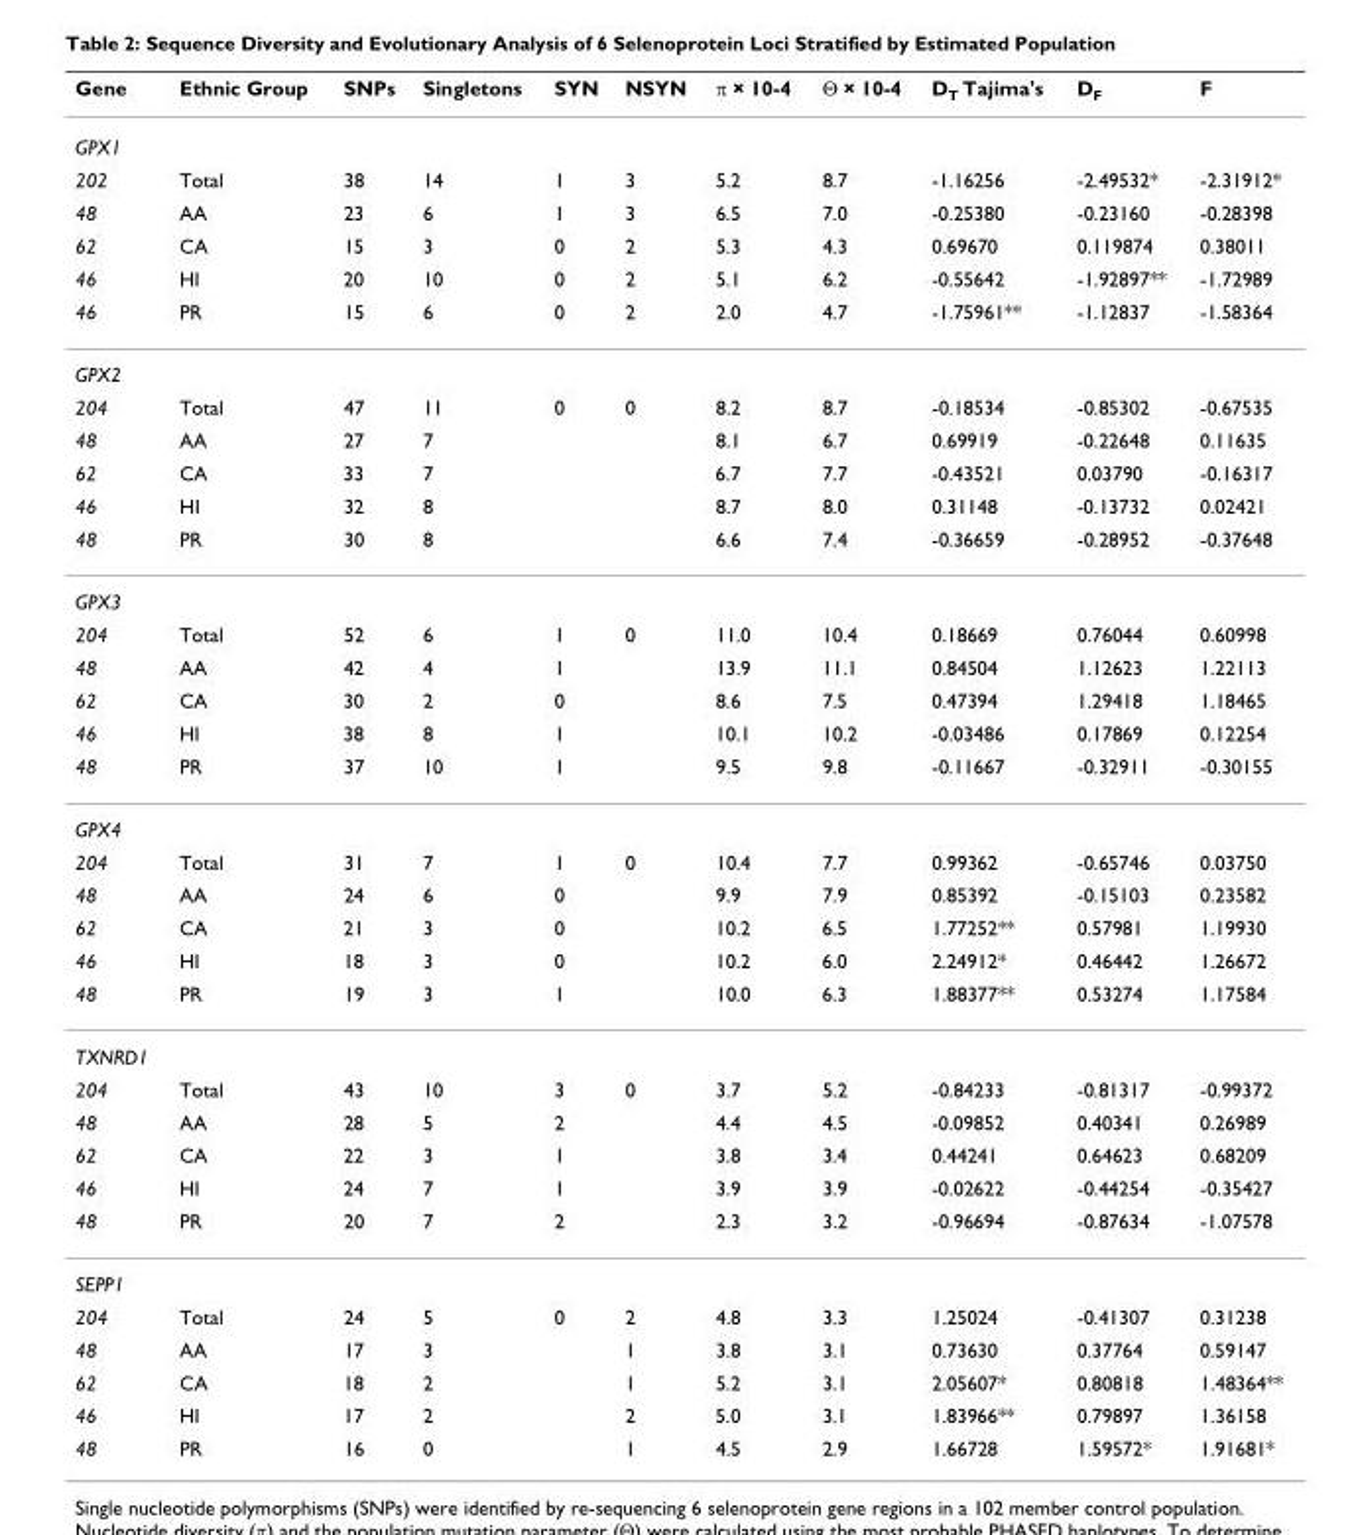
<table><thead><tr><td>Gene</td><td>Ethnic Group</td><td>SNPs</td><td>Singletons</td><td>SYN</td><td>NSYN</td><td>π × 10-4</td><td>Θ × 10-4</td><td>D<sub>T</sub> Tajima&#x27;s</td><td>D<sub>F</sub></td><td>F</td></tr></thead><tbody><tr><td colspan="11">GPX1</td></tr><tr><td>202</td><td>Total</td><td>38</td><td>14</td><td>1</td><td>3</td><td>5.2</td><td>8.7</td><td>-1.16256</td><td>-2.49532*</td><td>-2.31912*</td></tr><tr><td>48</td><td>AA</td><td>23</td><td>6</td><td>1</td><td>3</td><td>6.5</td><td>7.0</td><td>-0.25380</td><td>-0.23160</td><td>-0.28398</td></tr><tr><td>62</td><td>CA</td><td>15</td><td>3</td><td>0</td><td>2</td><td>5.3</td><td>4.3</td><td>0.69670</td><td>0.119874</td><td>0.38011</td></tr><tr><td>46</td><td>HI</td><td>20</td><td>10</td><td>0</td><td>2</td><td>5.1</td><td>6.2</td><td>-0.55642</td><td>-1.92897**</td><td>-1.72989</td></tr><tr><td>46</td><td>PR</td><td>15</td><td>6</td><td>0</td><td>2</td><td>2.0</td><td>4.7</td><td>-1.75961**</td><td>-1.12837</td><td>-1.58364</td></tr><tr><td colspan="11">GPX2</td></tr><tr><td>204</td><td>Total</td><td>47</td><td>11</td><td>0</td><td>0</td><td>8.2</td><td>8.7</td><td>-0.18534</td><td>-0.85302</td><td>-0.67535</td></tr><tr><td>48</td><td>AA</td><td>27</td><td>7</td><td></td><td></td><td>8.1</td><td>6.7</td><td>0.69919</td><td>-0.22648</td><td>0.11635</td></tr><tr><td>62</td><td>CA</td><td>33</td><td>7</td><td></td><td></td><td>6.7</td><td>7.7</td><td>-0.43521</td><td>0.03790</td><td>-0.16317</td></tr><tr><td>46</td><td>HI</td><td>32</td><td>8</td><td></td><td></td><td>8.7</td><td>8.0</td><td>0.31148</td><td>-0.13732</td><td>0.02421</td></tr><tr><td>48</td><td>PR</td><td>30</td><td>8</td><td></td><td></td><td>6.6</td><td>7.4</td><td>-0.36659</td><td>-0.28952</td><td>-0.37648</td></tr><tr><td colspan="11">GPX3</td></tr><tr><td>204</td><td>Total</td><td>52</td><td>6</td><td>1</td><td>0</td><td>11.0</td><td>10.4</td><td>0.18669</td><td>0.76044</td><td>0.60998</td></tr><tr><td>48</td><td>AA</td><td>42</td><td>4</td><td>1</td><td></td><td>13.9</td><td>11.1</td><td>0.84504</td><td>1.12623</td><td>1.22113</td></tr><tr><td>62</td><td>CA</td><td>30</td><td>2</td><td>0</td><td></td><td>8.6</td><td>7.5</td><td>0.47394</td><td>1.29418</td><td>1.18465</td></tr><tr><td>46</td><td>HI</td><td>38</td><td>8</td><td>1</td><td></td><td>10.1</td><td>10.2</td><td>-0.03486</td><td>0.17869</td><td>0.12254</td></tr><tr><td>48</td><td>PR</td><td>37</td><td>10</td><td>1</td><td></td><td>9.5</td><td>9.8</td><td>-0.11667</td><td>-0.32911</td><td>-0.30155</td></tr><tr><td colspan="11">GPX4</td></tr><tr><td>204</td><td>Total</td><td>31</td><td>7</td><td>1</td><td>0</td><td>10.4</td><td>7.7</td><td>0.99362</td><td>-0.65746</td><td>0.03750</td></tr><tr><td>48</td><td>AA</td><td>24</td><td>6</td><td>0</td><td></td><td>9.9</td><td>7.9</td><td>0.85392</td><td>-0.15103</td><td>0.23582</td></tr><tr><td>62</td><td>CA</td><td>21</td><td>3</td><td>0</td><td></td><td>10.2</td><td>6.5</td><td>1.77252**</td><td>0.57981</td><td>1.19930</td></tr><tr><td>46</td><td>HI</td><td>18</td><td>3</td><td>0</td><td></td><td>10.2</td><td>6.0</td><td>2.24912*</td><td>0.46442</td><td>1.26672</td></tr><tr><td>48</td><td>PR</td><td>19</td><td>3</td><td>1</td><td></td><td>10.0</td><td>6.3</td><td>1.88377**</td><td>0.53274</td><td>1.17584</td></tr><tr><td colspan="11">TXNRD1</td></tr><tr><td>204</td><td>Total</td><td>43</td><td>10</td><td>3</td><td>0</td><td>3.7</td><td>5.2</td><td>-0.84233</td><td>-0.81317</td><td>-0.99372</td></tr><tr><td>48</td><td>AA</td><td>28</td><td>5</td><td>2</td><td></td><td>4.4</td><td>4.5</td><td>-0.09852</td><td>0.40341</td><td>0.26989</td></tr><tr><td>62</td><td>CA</td><td>22</td><td>3</td><td>1</td><td></td><td>3.8</td><td>3.4</td><td>0.44241</td><td>0.64623</td><td>0.68209</td></tr><tr><td>46</td><td>HI</td><td>24</td><td>7</td><td>1</td><td></td><td>3.9</td><td>3.9</td><td>-0.02622</td><td>-0.44254</td><td>-0.35427</td></tr><tr><td>48</td><td>PR</td><td>20</td><td>7</td><td>2</td><td></td><td>2.3</td><td>3.2</td><td>-0.96694</td><td>-0.87634</td><td>-1.07578</td></tr><tr><td colspan="11">SEPP1</td></tr><tr><td>204</td><td>Total</td><td>24</td><td>5</td><td>0</td><td>2</td><td>4.8</td><td>3.3</td><td>1.25024</td><td>-0.41307</td><td>0.31238</td></tr><tr><td>48</td><td>AA</td><td>17</td><td>3</td><td></td><td>1</td><td>3.8</td><td>3.1</td><td>0.73630</td><td>0.37764</td><td>0.59147</td></tr><tr><td>62</td><td>CA</td><td>18</td><td>2</td><td></td><td>1</td><td>5.2</td><td>3.1</td><td>2.05607*</td><td>0.80818</td><td>1.48364**</td></tr><tr><td>46</td><td>HI</td><td>17</td><td>2</td><td></td><td>2</td><td>5.0</td><td>3.1</td><td>1.83966**</td><td>0.79897</td><td>1.36158</td></tr><tr><td>48</td><td>PR</td><td>16</td><td>0</td><td></td><td>1</td><td>4.5</td><td>2.9</td><td>1.66728</td><td>1.59572*</td><td>1.91681*</td></tr></tbody></table>